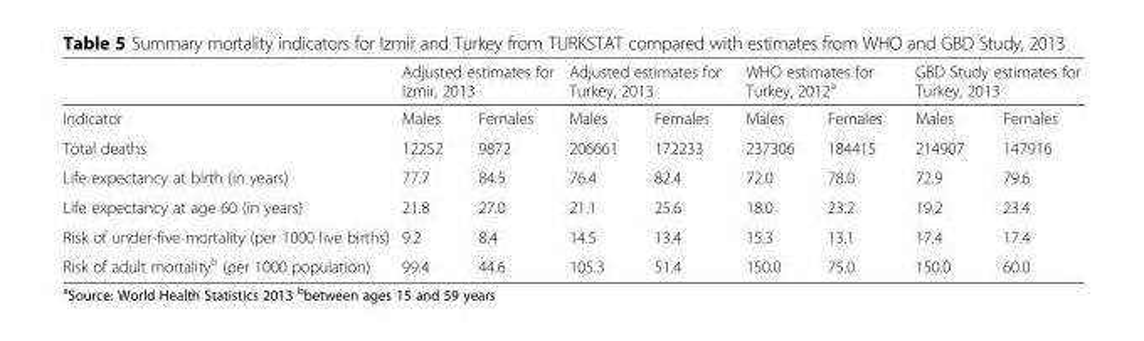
<table><thead><tr><td rowspan="2">Indicator</td><td colspan="2">Adjusted estimates for Izmir, 2013</td><td colspan="2">Adjusted estimates for Turkey, 2013</td><td colspan="2">WHO estimates for Turkey, 2012<sup>a</sup></td><td colspan="2">GBD Study estimates for Turkey, 2013</td></tr><tr><td>Males</td><td>Females</td><td>Males</td><td>Females</td><td>Males</td><td>Females</td><td>Males</td><td>Females</td></tr></thead><tbody><tr><td>Total deaths</td><td>12252</td><td>9872</td><td>206661</td><td>172233</td><td>237306</td><td>184415</td><td>214907</td><td>147916</td></tr><tr><td>Life expectancy at birth (in years)</td><td>77.7</td><td>84.5</td><td>76.4</td><td>82.4</td><td>72.0</td><td>78.0</td><td>72.9</td><td>79.6</td></tr><tr><td>Life expectancy at age 60 (in years)</td><td>21.8</td><td>27.0</td><td>21.1</td><td>25.6</td><td>18.0</td><td>23.2</td><td>19.2</td><td>23.4</td></tr><tr><td>Risk of under-five mortality (per 1000 live births)</td><td>9.2</td><td>8.4</td><td>14.5</td><td>13.4</td><td>15.3</td><td>13.1</td><td>17.4</td><td>17.4</td></tr><tr><td>Risk of adult mortality<sup>b</sup> (per 1000 population)</td><td>99.4</td><td>44.6</td><td>105.3</td><td>51.4</td><td>150.0</td><td>75.0</td><td>150.0</td><td>60.0</td></tr></tbody></table>